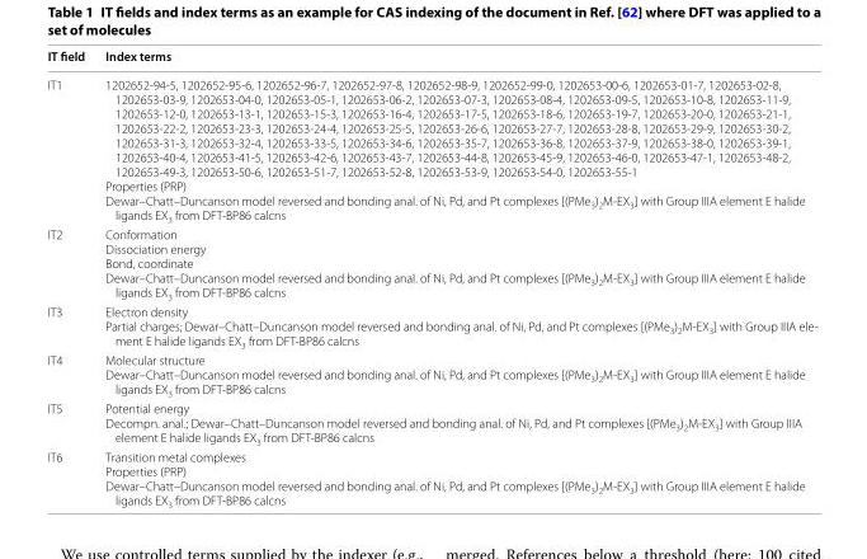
<table><thead><tr><td>IT field</td><td>Index terms</td></tr></thead><tbody><tr><td>IT1</td><td>1202652-94-5, 1202652-95-6, 1202652-96-7, 1202652-97-8, 1202652-98-9, 1202652-99-0, 1202653-00-6, 1202653-01-7, 1202653-02-8, 1202653-03-9, 1202653-04-0, 1202653-05-1, 1202653-06-2, 1202653-07-3, 1202653-08-4, 1202653-09-5, 1202653-10-8, 1202653-11-9, 1202653-12-0, 1202653-13-1, 1202653-15-3, 1202653-16-4, 1202653-17-5, 1202653-18-6, 1202653-19-7, 1202653-20-0, 1202653-21-1, 1202653-22-2, 1202653-23-3, 1202653-24-4, 1202653-25-5, 1202653-26-6, 1202653-27-7, 1202653-28-8, 1202653-29-9, 1202653-30-2, 1202653-31-3, 1202653-32-4, 1202653-33-5, 1202653-34-6, 1202653-35-7, 1202653-36-8, 1202653-37-9, 1202653-38-0, 1202653-39-1, 1202653-40-4, 1202653-41-5, 1202653-42-6, 1202653-43-7, 1202653-44-8, 1202653-45-9, 1202653-46-0, 1202653-47-1, 1202653-48-2, 1202653-49-3, 1202653-50-6, 1202653-51-7, 1202653-52-8, 1202653-53-9, 1202653-54-0, 1202653-55-1 Properties (PRP) Dewar–Chatt–Duncanson model reversed and bonding anal. of Ni, Pd, and Pt complexes [(PMe<sub>3</sub>)<sub>2</sub>M-EX<sub>3</sub>] with Group IIIA element E halide ligands EX<sub>3</sub> from DFT-BP86 calcns</td></tr><tr><td>IT2</td><td>Conformation Dissociation energy Bond, coordinate Dewar–Chatt–Duncanson model reversed and bonding anal. of Ni, Pd, and Pt complexes [(PMe<sub>3</sub>)<sub>2</sub>M-EX<sub>3</sub>] with Group IIIA element E halide ligands EX<sub>3</sub> from DFT-BP86 calcns</td></tr><tr><td>IT3</td><td>Electron density Partial charges; Dewar–Chatt–Duncanson model reversed and bonding anal. of Ni, Pd, and Pt complexes [(PMe3)2M-EX3] with Group IIIA ele- ment E halide ligands EX3 from DFT-BP86 calcns</td></tr><tr><td>IT4</td><td>Molecular structure Dewar–Chatt–Duncanson model reversed and bonding anal. of Ni, Pd, and Pt complexes [(PMe<sub>3</sub>)<sub>2</sub>M-EX<sub>3</sub>] with Group IIIA element E halide ligands EX<sub>3</sub> from DFT-BP86 calcns</td></tr><tr><td>IT5</td><td>Potential energy Decompn. anal.; Dewar–Chatt–Duncanson model reversed and bonding anal. of Ni, Pd, and Pt complexes [(PMe<sub>3</sub>)<sub>2</sub>M-EX<sub>3</sub>] with Group IIIA element E halide ligands EX<sub>3</sub> from DFT-BP86 calcns</td></tr><tr><td>IT6</td><td>Transition metal complexes Properties (PRP) Dewar–Chatt–Duncanson model reversed and bonding anal. of Ni, Pd, and Pt complexes [(PMe<sub>3</sub>)<sub>2</sub>M-EX<sub>3</sub>] with Group IIIA element E halide ligands EX<sub>3</sub> from DFT-BP86 calcns</td></tr></tbody></table>